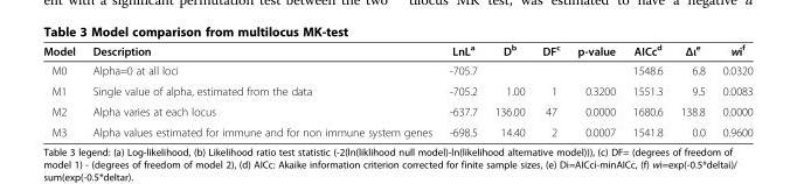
<table><thead><tr><td>Model</td><td>Description</td><td>LnL<sup>a</sup></td><td>D<sup>b</sup></td><td>DF<sup>c</sup></td><td>p-value</td><td>AICc<sup>d</sup></td><td>Δι<sup>e</sup></td><td>wi<sup>f</sup></td></tr></thead><tbody><tr><td>M0</td><td>Alpha=0 at all loci</td><td>-705.7</td><td></td><td></td><td></td><td>1548.6</td><td>6.8</td><td>0.0320</td></tr><tr><td>M1</td><td>Single value of alpha, estimated from the data</td><td>-705.2</td><td>1.00</td><td>1</td><td>0.3200</td><td>1551.3</td><td>9.5</td><td>0.0083</td></tr><tr><td>M2</td><td>Alpha varies at each locus</td><td>-637.7</td><td>136.00</td><td>47</td><td>0.0000</td><td>1680.6</td><td>138.8</td><td>0.0000</td></tr><tr><td>M3</td><td>Alpha values estimated for immune and for non immune system genes</td><td>-698.5</td><td>14.40</td><td>2</td><td>0.0007</td><td>1541.8</td><td>0.0</td><td>0.9600</td></tr></tbody></table>